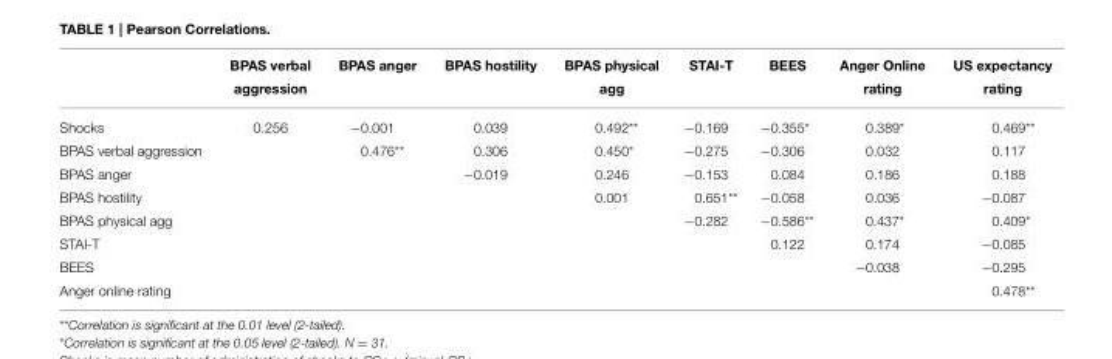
<table><thead><tr><td></td><td>BPAS verbal aggression</td><td>BPAS anger</td><td>BPAS hostility</td><td>BPAS physical agg</td><td>STAI-T</td><td>BEES</td><td>Anger Online rating</td><td>US expectancy rating</td></tr></thead><tbody><tr><td>Shocks</td><td>0.256</td><td>−0.001</td><td>0.039</td><td>0.492**</td><td>−0.169</td><td>−0.355*</td><td>0.389*</td><td>0.469**</td></tr><tr><td>BPAS verbal aggression</td><td></td><td>0.476**</td><td>0.306</td><td>0.450*</td><td>−0.275</td><td>−0.306</td><td>0.032</td><td>0.117</td></tr><tr><td>BPAS anger</td><td></td><td></td><td>−0.019</td><td>0.246</td><td>−0.153</td><td>0.084</td><td>0.186</td><td>0.188</td></tr><tr><td>BPAS hostility</td><td></td><td></td><td></td><td>0.001</td><td>0.651**</td><td>−0.058</td><td>0.036</td><td>−0.087</td></tr><tr><td>BPAS physical agg</td><td></td><td></td><td></td><td></td><td>−0.282</td><td>−0.586**</td><td>0.437*</td><td>0.409*</td></tr><tr><td>STAI-T</td><td></td><td></td><td></td><td></td><td></td><td>0.122</td><td>0.174</td><td>−0.085</td></tr><tr><td>BEES</td><td></td><td></td><td></td><td></td><td></td><td></td><td>−0.038</td><td>−0.295</td></tr><tr><td>Anger online rating</td><td></td><td></td><td></td><td></td><td></td><td></td><td></td><td>0.478**</td></tr></tbody></table>